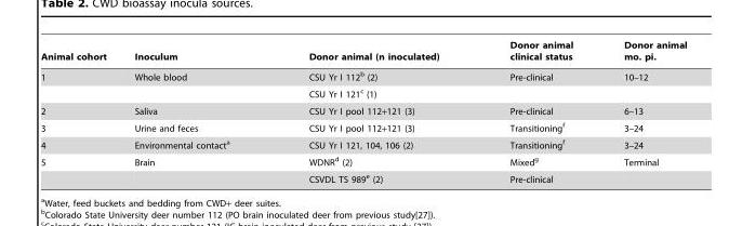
<table><thead><tr><td>Animal cohort</td><td>Inoculum</td><td>Donor animal (n inoculated)</td><td>Donor animal clinical status</td><td>Donor animal mo. pi.</td></tr></thead><tbody><tr><td rowspan="2">1</td><td>Whole blood</td><td>CSU Yr I 112<sup>b</sup> (2)</td><td>Pre-clinical</td><td>10–12</td></tr><tr><td></td><td>CSU Yr I 121<sup>c</sup> (1)</td><td></td><td></td></tr><tr><td>2</td><td>Saliva</td><td>CSU Yr I pool 112+121 (3)</td><td>Pre-clinical</td><td>6–13</td></tr><tr><td>3</td><td>Urine and feces</td><td>CSU Yr I pool 112+121 (3)</td><td>Transitioning<sup>f</sup></td><td>3–24</td></tr><tr><td>4</td><td>Environmental contact<sup>a</sup></td><td>CSU Yr I 121, 104, 106 (2)</td><td>Transitioning<sup>f</sup></td><td>3–24</td></tr><tr><td rowspan="2">5</td><td>Brain</td><td>WDNR<sup>d</sup> (2)</td><td>Mixed<sup>g</sup></td><td>Terminal</td></tr><tr><td></td><td>CSVDL TS 989<sup>e</sup> (2)</td><td>Pre-clinical</td><td></td></tr></tbody></table>